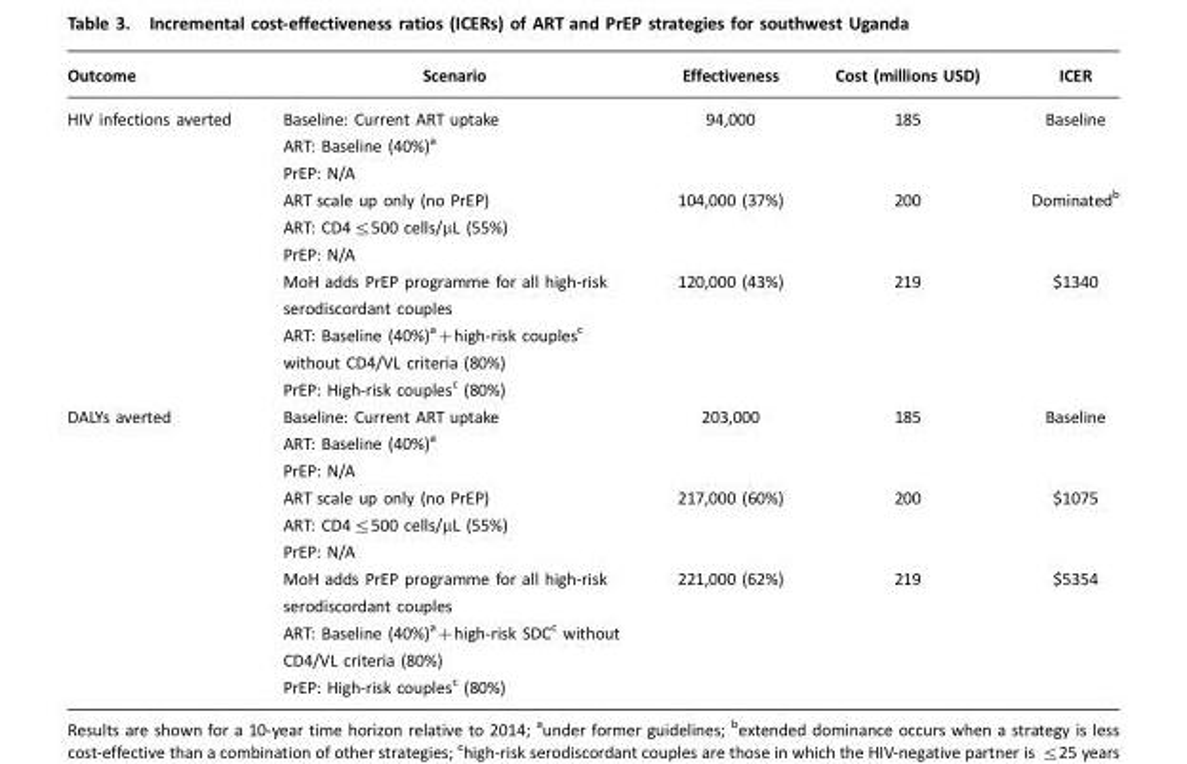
<table><thead><tr><td>Outcome</td><td>Scenario</td><td>Effectiveness</td><td>Cost (millions USD)</td><td>ICER</td></tr></thead><tbody><tr><td rowspan="3">HIV infections averted</td><td>Baseline: Current ART uptake ART: Baseline (40%)a PrEP: N/A</td><td>94,000</td><td>185</td><td>Baseline</td></tr><tr><td>ART scale up only (no PrEP) ART: CD4≤500 cells/µL (55%) PrEP: N/A</td><td>104,000 (37%)</td><td>200</td><td>Dominatedb</td></tr><tr><td>MoH adds PrEP programme for all high-risk serodiscordant couples ART: Baseline (40%)a+high-risk couplesc without CD4/VL criteria (80%) PrEP: High-risk couplesc (80%)</td><td>120,000 (43%)</td><td>219</td><td>$1340</td></tr><tr><td rowspan="3">DALYs averted</td><td>Baseline: Current ART uptake ART: Baseline (40%)a PrEP: N/A</td><td>203,000</td><td>185</td><td>Baseline</td></tr><tr><td>ART scale up only (no PrEP) ART: CD4≤500 cells/µL (55%) PrEP: N/A</td><td>217,000 (60%)</td><td>200</td><td>$1075</td></tr><tr><td>MoH adds PrEP programme for all high-risk serodiscordant couples ART: Baseline (40%)a+high-risk SDCc without CD4/VL criteria (80%) PrEP: High-risk couplesc (80%)</td><td>221,000 (62%)</td><td>219</td><td>$5354</td></tr></tbody></table>